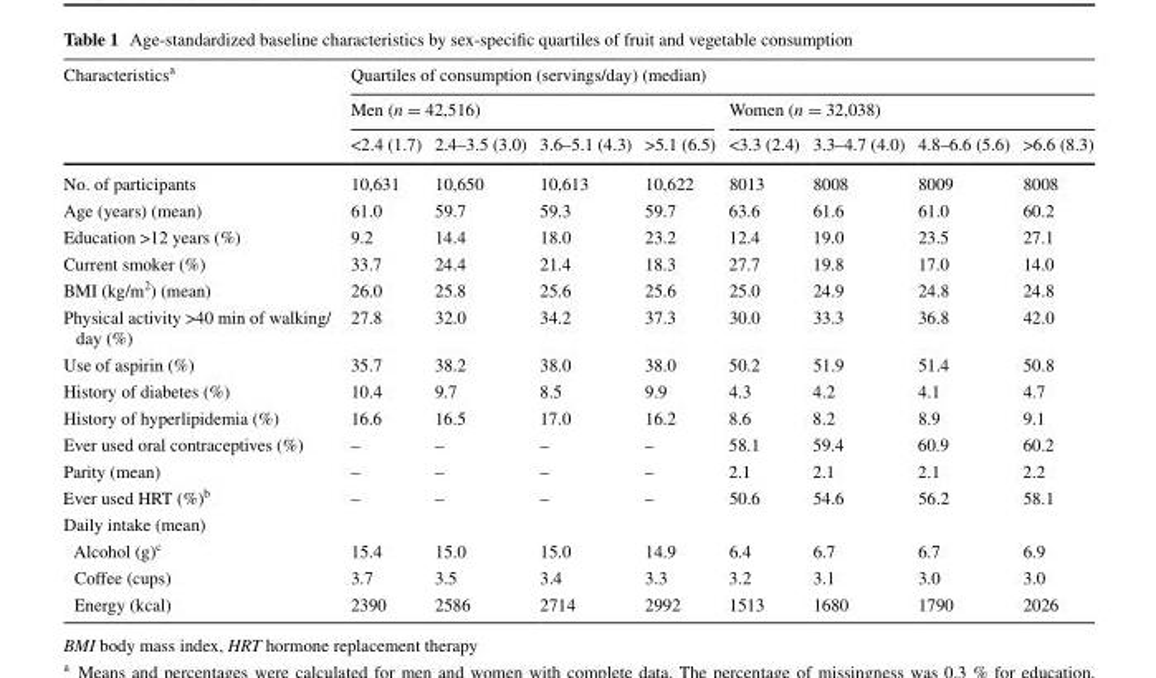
<table><thead><tr><td rowspan="3">Characteristics<sup>a</sup></td><td colspan="8">Quartiles of consumption (servings/day) (median)</td></tr><tr><td colspan="4">Men (n = 42,516)</td><td colspan="4">Women (n = 32,038)</td></tr><tr><td>&lt;2.4 (1.7)</td><td>2.4–3.5 (3.0)</td><td>3.6–5.1 (4.3)</td><td>&gt;5.1 (6.5)</td><td>&lt;3.3 (2.4)</td><td>3.3–4.7 (4.0)</td><td>4.8–6.6 (5.6)</td><td>&gt;6.6 (8.3)</td></tr></thead><tbody><tr><td>No. of participants</td><td>10,631</td><td>10,650</td><td>10,613</td><td>10,622</td><td>8013</td><td>8008</td><td>8009</td><td>8008</td></tr><tr><td>Age (years) (mean)</td><td>61.0</td><td>59.7</td><td>59.3</td><td>59.7</td><td>63.6</td><td>61.6</td><td>61.0</td><td>60.2</td></tr><tr><td>Education &gt;12 years (%)</td><td>9.2</td><td>14.4</td><td>18.0</td><td>23.2</td><td>12.4</td><td>19.0</td><td>23.5</td><td>27.1</td></tr><tr><td>Current smoker (%)</td><td>33.7</td><td>24.4</td><td>21.4</td><td>18.3</td><td>27.7</td><td>19.8</td><td>17.0</td><td>14.0</td></tr><tr><td>BMI (kg/m<sup>2</sup>) (mean)</td><td>26.0</td><td>25.8</td><td>25.6</td><td>25.6</td><td>25.0</td><td>24.9</td><td>24.8</td><td>24.8</td></tr><tr><td>Physical activity &gt;40 min of walking/ day (%)</td><td>27.8</td><td>32.0</td><td>34.2</td><td>37.3</td><td>30.0</td><td>33.3</td><td>36.8</td><td>42.0</td></tr><tr><td>Use of aspirin (%)</td><td>35.7</td><td>38.2</td><td>38.0</td><td>38.0</td><td>50.2</td><td>51.9</td><td>51.4</td><td>50.8</td></tr><tr><td>History of diabetes (%)</td><td>10.4</td><td>9.7</td><td>8.5</td><td>9.9</td><td>4.3</td><td>4.2</td><td>4.1</td><td>4.7</td></tr><tr><td>History of hyperlipidemia (%)</td><td>16.6</td><td>16.5</td><td>17.0</td><td>16.2</td><td>8.6</td><td>8.2</td><td>8.9</td><td>9.1</td></tr><tr><td>Ever used oral contraceptives (%)</td><td>–</td><td>–</td><td>–</td><td>–</td><td>58.1</td><td>59.4</td><td>60.9</td><td>60.2</td></tr><tr><td>Parity (mean)</td><td>–</td><td>–</td><td>–</td><td>–</td><td>2.1</td><td>2.1</td><td>2.1</td><td>2.2</td></tr><tr><td>Ever used HRT (%)<sup>b</sup></td><td>–</td><td>–</td><td>–</td><td>–</td><td>50.6</td><td>54.6</td><td>56.2</td><td>58.1</td></tr><tr><td colspan="9">Daily intake (mean)</td></tr><tr><td>Alcohol (g)<sup>c</sup></td><td>15.4</td><td>15.0</td><td>15.0</td><td>14.9</td><td>6.4</td><td>6.7</td><td>6.7</td><td>6.9</td></tr><tr><td>Coffee (cups)</td><td>3.7</td><td>3.5</td><td>3.4</td><td>3.3</td><td>3.2</td><td>3.1</td><td>3.0</td><td>3.0</td></tr><tr><td>Energy (kcal)</td><td>2390</td><td>2586</td><td>2714</td><td>2992</td><td>1513</td><td>1680</td><td>1790</td><td>2026</td></tr></tbody></table>